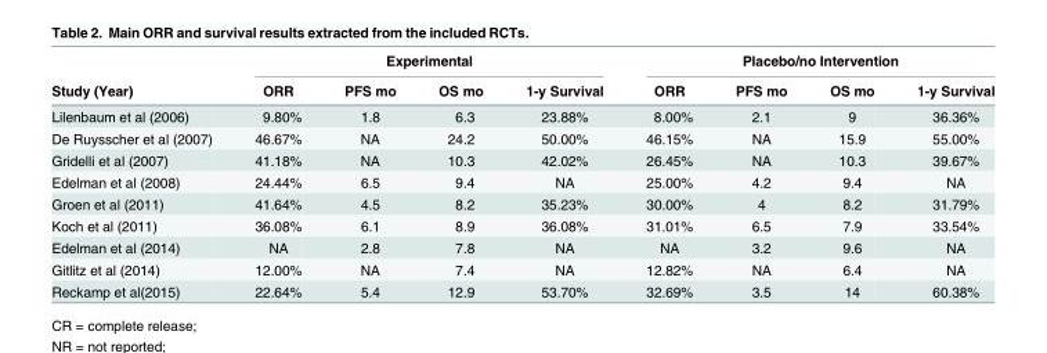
<table><thead><tr><td rowspan="2">Study (Year)</td><td colspan="4">Experimental</td><td colspan="4">Placebo/no Intervention</td></tr><tr><td>ORR</td><td>PFS mo</td><td>OS mo</td><td>1-y Survival</td><td>ORR</td><td>PFS mo</td><td>OS mo</td><td>1-y Survival</td></tr></thead><tbody><tr><td>Lilenbaum et al (2006)</td><td>9.80%</td><td>1.8</td><td>6.3</td><td>23.88%</td><td>8.00%</td><td>2.1</td><td>9</td><td>36.36%</td></tr><tr><td>De Ruysscher et al (2007)</td><td>46.67%</td><td>NA</td><td>24.2</td><td>50.00%</td><td>46.15%</td><td>NA</td><td>15.9</td><td>55.00%</td></tr><tr><td>Gridelli et al (2007)</td><td>41.18%</td><td>NA</td><td>10.3</td><td>42.02%</td><td>26.45%</td><td>NA</td><td>10.3</td><td>39.67%</td></tr><tr><td>Edelman et al (2008)</td><td>24.44%</td><td>6.5</td><td>9.4</td><td>NA</td><td>25.00%</td><td>4.2</td><td>9.4</td><td>NA</td></tr><tr><td>Groen et al (2011)</td><td>41.64%</td><td>4.5</td><td>8.2</td><td>35.23%</td><td>30.00%</td><td>4</td><td>8.2</td><td>31.79%</td></tr><tr><td>Koch et al (2011)</td><td>36.08%</td><td>6.1</td><td>8.9</td><td>36.08%</td><td>31.01%</td><td>6.5</td><td>7.9</td><td>33.54%</td></tr><tr><td>Edelman et al (2014)</td><td>NA</td><td>2.8</td><td>7.8</td><td>NA</td><td>NA</td><td>3.2</td><td>9.6</td><td>NA</td></tr><tr><td>Gitlitz et al (2014)</td><td>12.00%</td><td>NA</td><td>7.4</td><td>NA</td><td>12.82%</td><td>NA</td><td>6.4</td><td>NA</td></tr><tr><td>Reckamp et al(2015)</td><td>22.64%</td><td>5.4</td><td>12.9</td><td>53.70%</td><td>32.69%</td><td>3.5</td><td>14</td><td>60.38%</td></tr></tbody></table>